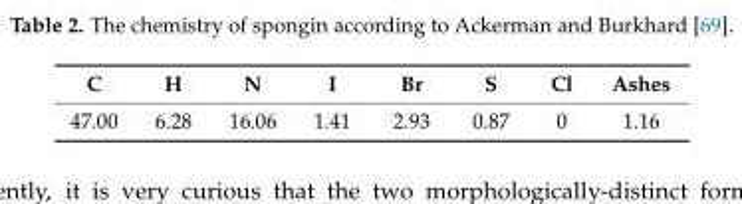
<table><thead><tr><td>C</td><td>H</td><td>N</td><td>I</td><td>Br</td><td>S</td><td>Cl</td><td>Ashes</td></tr></thead><tbody><tr><td>47.00</td><td>6.28</td><td>16.06</td><td>1.41</td><td>2.93</td><td>0.87</td><td>0</td><td>1.16</td></tr></tbody></table>